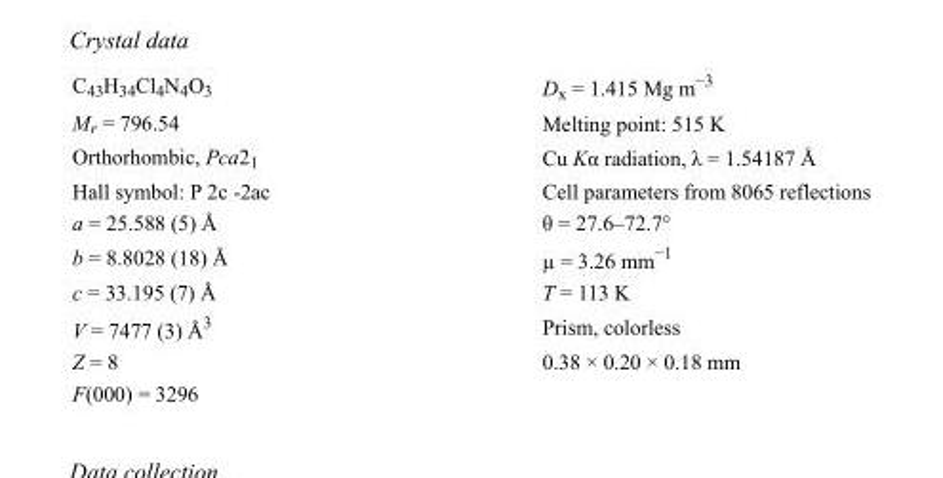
<table><tbody><tr><td>C<sub>43</sub>H<sub>34</sub>Cl<sub>4</sub>N<sub>4</sub>O<sub>3</sub></td><td>D<sub>x</sub> = 1.415 Mg m<sup>−3</sup></td></tr><tr><td>M<sub>r</sub> = 796.54</td><td>Melting point: 515 K</td></tr><tr><td>Orthorhombic, Pca2<sub>1</sub></td><td>Cu Kα radiation, λ = 1.54187 Å</td></tr><tr><td>Hall symbol: P 2c -2ac</td><td>Cell parameters from 8065 reflections</td></tr><tr><td>a = 25.588 (5) Å</td><td>θ = 27.6–72.7°</td></tr><tr><td>b = 8.8028 (18) Å</td><td>µ = 3.26 mm<sup>−1</sup></td></tr><tr><td>c = 33.195 (7) Å</td><td>T = 113 K</td></tr><tr><td>V = 7477 (3) Å<sup>3</sup></td><td>Prism, colorless</td></tr><tr><td>Z = 8</td><td>0.38 × 0.20 × 0.18 mm</td></tr><tr><td>F(000) = 3296</td><td></td></tr></tbody></table>